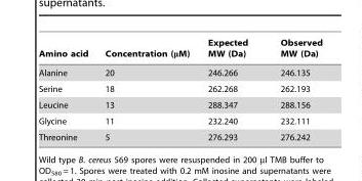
<table><thead><tr><td>Amino acid</td><td>Concentration (μM)</td><td>Expected MW (Da)</td><td>Observed MW (Da)</td></tr></thead><tbody><tr><td>Alanine</td><td>20</td><td>246.266</td><td>246.135</td></tr><tr><td>Serine</td><td>18</td><td>262.268</td><td>262.193</td></tr><tr><td>Leucine</td><td>13</td><td>288.347</td><td>288.156</td></tr><tr><td>Glycine</td><td>11</td><td>232.240</td><td>232.111</td></tr><tr><td>Threonine</td><td>5</td><td>276.293</td><td>276.242</td></tr></tbody></table>